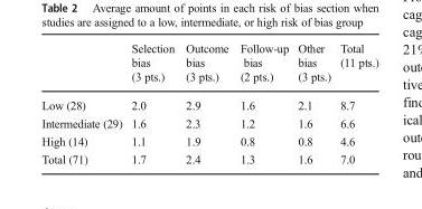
<table><thead><tr><td></td><td>Selection bias (3 pts.)</td><td>Outcome bias (3 pts.)</td><td>Follow-up bias (2 pts.)</td><td>Other bias (3 pts.)</td><td>Total (11 pts.)</td></tr></thead><tbody><tr><td>Low (28)</td><td>2.0</td><td>2.9</td><td>1.6</td><td>2.1</td><td>8.7</td></tr><tr><td>Intermediate (29)</td><td>1.6</td><td>2.3</td><td>1.2</td><td>1.6</td><td>6.6</td></tr><tr><td>High (14)</td><td>1.1</td><td>1.9</td><td>0.8</td><td>0.8</td><td>4.6</td></tr><tr><td>Total (71)</td><td>1.7</td><td>2.4</td><td>1.3</td><td>1.6</td><td>7.0</td></tr></tbody></table>